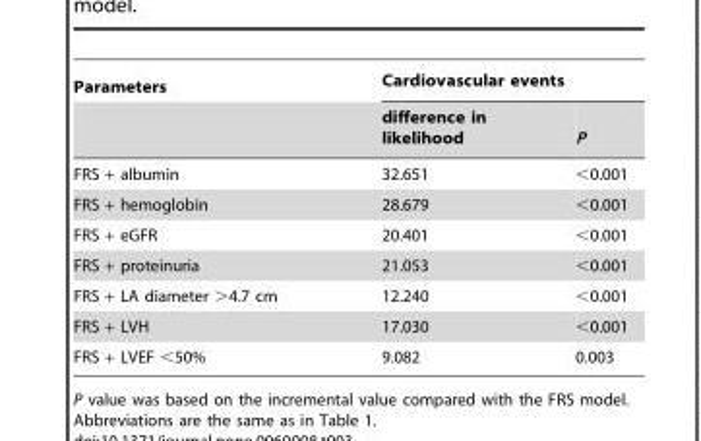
<table><thead><tr><td rowspan="2">Parameters</td><td colspan="2">Cardiovascular events</td></tr><tr><td>difference in likelihood</td><td>P</td></tr></thead><tbody><tr><td>FRS + albumin</td><td>32.651</td><td>&lt;0.001</td></tr><tr><td>FRS + hemoglobin</td><td>28.679</td><td>&lt;0.001</td></tr><tr><td>FRS + eGFR</td><td>20.401</td><td>&lt;0.001</td></tr><tr><td>FRS + proteinuria</td><td>21.053</td><td>&lt;0.001</td></tr><tr><td>FRS + LA diameter &gt;4.7 cm</td><td>12.240</td><td>&lt;0.001</td></tr><tr><td>FRS + LVH</td><td>17.030</td><td>&lt;0.001</td></tr><tr><td>FRS + LVEF &lt;50%</td><td>9.082</td><td>0.003</td></tr></tbody></table>